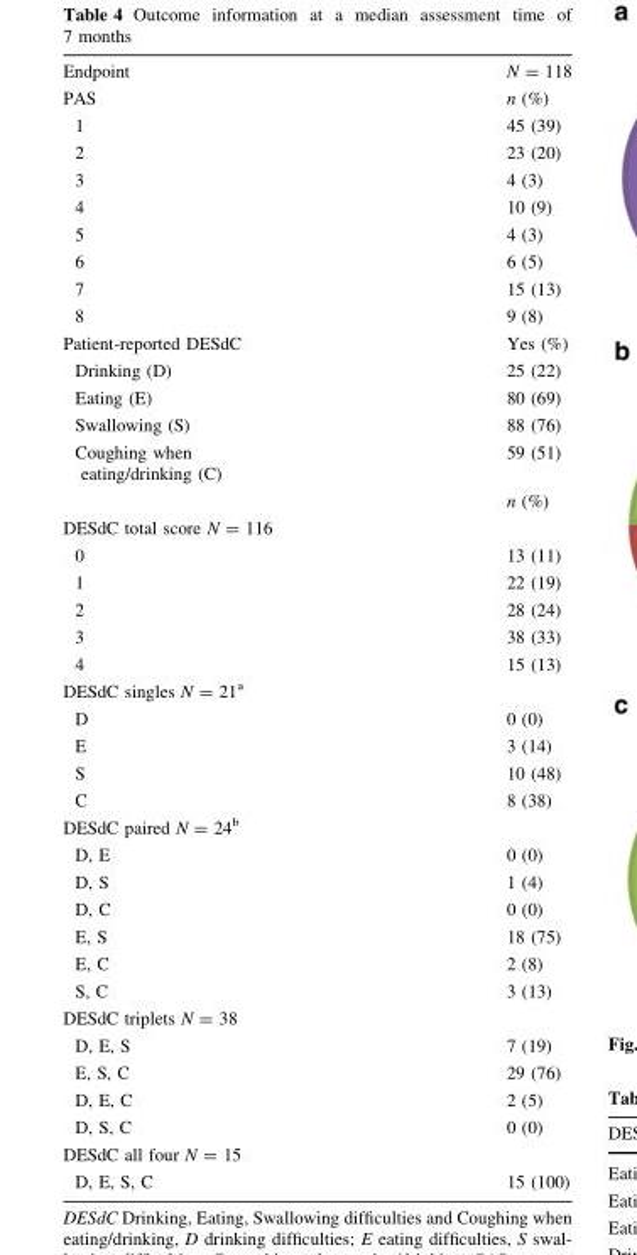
<table><tbody><tr><td>Endpoint</td><td>N = 118</td></tr><tr><td>PAS</td><td>n (%)</td></tr><tr><td>1</td><td>45 (39)</td></tr><tr><td>2</td><td>23 (20)</td></tr><tr><td>3</td><td>4 (3)</td></tr><tr><td>4</td><td>10 (9)</td></tr><tr><td>5</td><td>4 (3)</td></tr><tr><td>6</td><td>6 (5)</td></tr><tr><td>7</td><td>15 (13)</td></tr><tr><td>8</td><td>9 (8)</td></tr><tr><td>Patient-reported DESdC</td><td>Yes (%)</td></tr><tr><td>Drinking (D)</td><td>25 (22)</td></tr><tr><td>Eating (E)</td><td>80 (69)</td></tr><tr><td>Swallowing (S)</td><td>88 (76)</td></tr><tr><td rowspan="2">Coughing when eating/drinking (C)</td><td>59 (51)</td></tr><tr><td>n (%)</td></tr><tr><td colspan="2">DESdC total score N = 116</td></tr><tr><td>0</td><td>13 (11)</td></tr><tr><td>1</td><td>22 (19)</td></tr><tr><td>2</td><td>28 (24)</td></tr><tr><td>3</td><td>38 (33)</td></tr><tr><td>4</td><td>15 (13)</td></tr><tr><td colspan="2">DESdC singles N = 21<sup>a</sup></td></tr><tr><td>D</td><td>0 (0)</td></tr><tr><td>E</td><td>3 (14)</td></tr><tr><td>S</td><td>10 (48)</td></tr><tr><td>C</td><td>8 (38)</td></tr><tr><td colspan="2">DESdC paired N = 24<sup>b</sup></td></tr><tr><td>D, E</td><td>0 (0)</td></tr><tr><td>D, S</td><td>1 (4)</td></tr><tr><td>D, C</td><td>0 (0)</td></tr><tr><td>E, S</td><td>18 (75)</td></tr><tr><td>E, C</td><td>2 (8)</td></tr><tr><td>S, C</td><td>3 (13)</td></tr><tr><td colspan="2">DESdC triplets N = 38</td></tr><tr><td>D, E, S</td><td>7 (19)</td></tr><tr><td>E, S, C</td><td>29 (76)</td></tr><tr><td>D, E, C</td><td>2 (5)</td></tr><tr><td>D, S, C</td><td>0 (0)</td></tr><tr><td colspan="2">DESdC all four N = 15</td></tr><tr><td>D, E, S, C</td><td>15 (100)</td></tr></tbody></table>